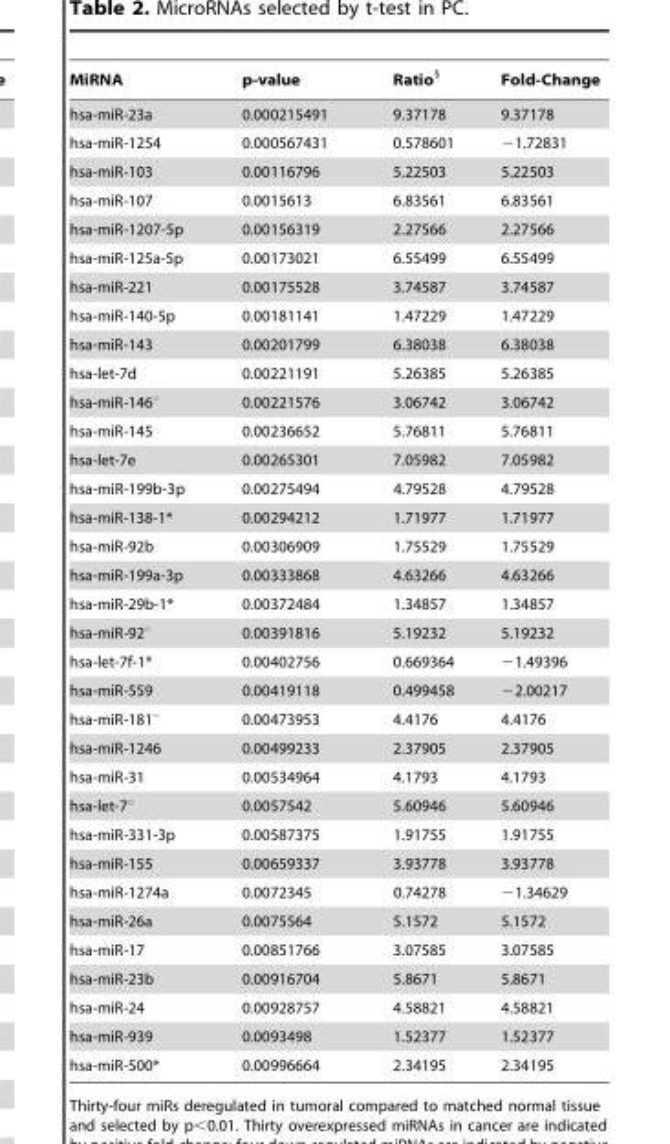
<table><thead><tr><td>MiRNA</td><td>p-value</td><td>Ratio§</td><td>Fold-Change</td></tr></thead><tbody><tr><td>hsa-miR-23a</td><td>0.000215491</td><td>9.37178</td><td>9.37178</td></tr><tr><td>hsa-miR-1254</td><td>0.000567431</td><td>0.578601</td><td>−1.72831</td></tr><tr><td>hsa-miR-103</td><td>0.00116796</td><td>5.22503</td><td>5.22503</td></tr><tr><td>hsa-miR-107</td><td>0.0015613</td><td>6.83561</td><td>6.83561</td></tr><tr><td>hsa-miR-1207-5p</td><td>0.00156319</td><td>2.27566</td><td>2.27566</td></tr><tr><td>hsa-miR-125a-5p</td><td>0.00173021</td><td>6.55499</td><td>6.55499</td></tr><tr><td>hsa-miR-221</td><td>0.00175528</td><td>3.74587</td><td>3.74587</td></tr><tr><td>hsa-miR-140-5p</td><td>0.00181141</td><td>1.47229</td><td>1.47229</td></tr><tr><td>hsa-miR-143</td><td>0.00201799</td><td>6.38038</td><td>6.38038</td></tr><tr><td>hsa-let-7d</td><td>0.00221191</td><td>5.26385</td><td>5.26385</td></tr><tr><td>hsa-miR-146°</td><td>0.00221576</td><td>3.06742</td><td>3.06742</td></tr><tr><td>hsa-miR-145</td><td>0.00236652</td><td>5.76811</td><td>5.76811</td></tr><tr><td>hsa-let-7e</td><td>0.00265301</td><td>7.05982</td><td>7.05982</td></tr><tr><td>hsa-miR-199b-3p</td><td>0.00275494</td><td>4.79528</td><td>4.79528</td></tr><tr><td>hsa-miR-138-1*</td><td>0.00294212</td><td>1.71977</td><td>1.71977</td></tr><tr><td>hsa-miR-92b</td><td>0.00306909</td><td>1.75529</td><td>1.75529</td></tr><tr><td>hsa-miR-199a-3p</td><td>0.00333868</td><td>4.63266</td><td>4.63266</td></tr><tr><td>hsa-miR-29b-1*</td><td>0.00372484</td><td>1.34857</td><td>1.34857</td></tr><tr><td>hsa-miR-92°</td><td>0.00391816</td><td>5.19232</td><td>5.19232</td></tr><tr><td>hsa-let-7f-1*</td><td>0.00402756</td><td>0.669364</td><td>−1.49396</td></tr><tr><td>hsa-miR-559</td><td>0.00419118</td><td>0.499458</td><td>−2.00217</td></tr><tr><td>hsa-miR-181°</td><td>0.00473953</td><td>4.4176</td><td>4.4176</td></tr><tr><td>hsa-miR-1246</td><td>0.00499233</td><td>2.37905</td><td>2.37905</td></tr><tr><td>hsa-miR-31</td><td>0.00534964</td><td>4.1793</td><td>4.1793</td></tr><tr><td>hsa-let-7°</td><td>0.0057542</td><td>5.60946</td><td>5.60946</td></tr><tr><td>hsa-miR-331-3p</td><td>0.00587375</td><td>1.91755</td><td>1.91755</td></tr><tr><td>hsa-miR-155</td><td>0.00659337</td><td>3.93778</td><td>3.93778</td></tr><tr><td>hsa-miR-1274a</td><td>0.0072345</td><td>0.74278</td><td>−1.34629</td></tr><tr><td>hsa-miR-26a</td><td>0.0075564</td><td>5.1572</td><td>5.1572</td></tr><tr><td>hsa-miR-17</td><td>0.00851766</td><td>3.07585</td><td>3.07585</td></tr><tr><td>hsa-miR-23b</td><td>0.00916704</td><td>5.8671</td><td>5.8671</td></tr><tr><td>hsa-miR-24</td><td>0.00928757</td><td>4.58821</td><td>4.58821</td></tr><tr><td>hsa-miR-939</td><td>0.0093498</td><td>1.52377</td><td>1.52377</td></tr><tr><td>hsa-miR-500*</td><td>0.00996664</td><td>2.34195</td><td>2.34195</td></tr></tbody></table>